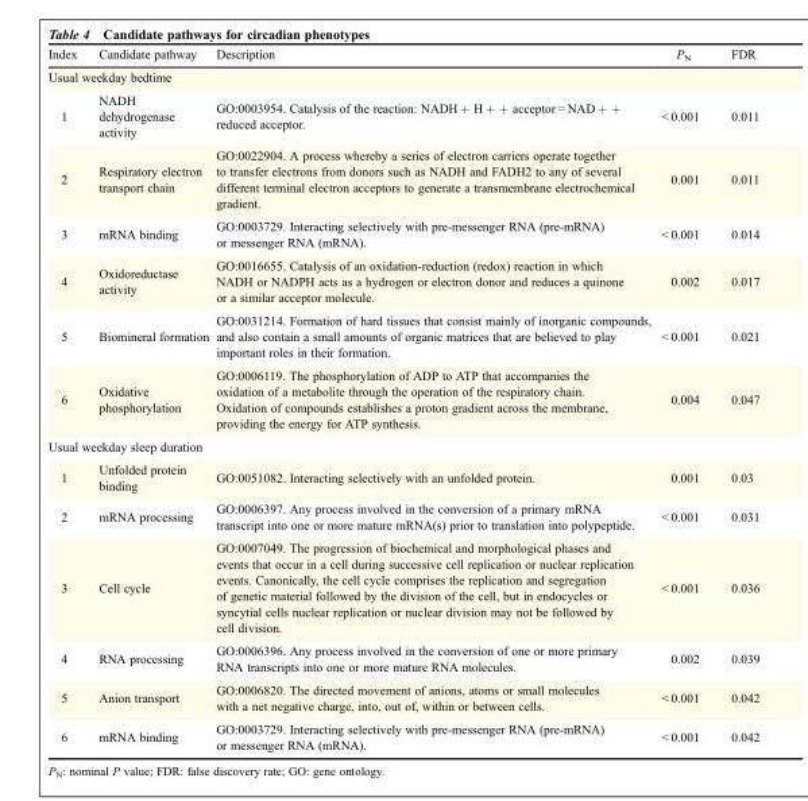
<table><thead><tr><td>Index</td><td>Candidate pathway</td><td>Description</td><td>P<sub>N</sub></td><td>FDR</td></tr></thead><tbody><tr><td colspan="5">Usual weekday bedtime</td></tr><tr><td>1</td><td>NADH dehydrogenase activity</td><td>GO:0003954. Catalysis of the reaction: NADH + H + + acceptor = NAD + + reduced acceptor.</td><td>&lt; 0.001</td><td>0.011</td></tr><tr><td>2</td><td>Respiratory electron transport chain</td><td>GO:0022904. A process whereby a series of electron carriers operate together to transfer electrons from donors such as NADH and FADH2 to any of several different terminal electron acceptors to generate a transmembrane electrochemical gradient.</td><td>0.001</td><td>0.011</td></tr><tr><td>3</td><td>mRNA binding</td><td>GO:0003729. Interacting selectively with pre-messenger RNA (pre-mRNA) or messenger RNA (mRNA).</td><td>&lt; 0.001</td><td>0.014</td></tr><tr><td>4</td><td>Oxidoreductase activity</td><td>GO:0016655. Catalysis of an oxidation-reduction (redox) reaction in which NADH or NADPH acts as a hydrogen or electron donor and reduces a quinone or a similar acceptor molecule.</td><td>0.002</td><td>0.017</td></tr><tr><td>5</td><td>Biomineral formation</td><td>GO:0031214. Formation of hard tissues that consist mainly of inorganic compounds, and also contain a small amounts of organic matrices that are believed to play important roles in their formation.</td><td>&lt; 0.001</td><td>0.021</td></tr><tr><td>6</td><td>Oxidative phosphorylation</td><td>GO:0006119. The phosphorylation of ADP to ATP that accompanies the oxidation of a metabolite through the operation of the respiratory chain. Oxidation of compounds establishes a proton gradient across the membrane, providing the energy for ATP synthesis.</td><td>0.004</td><td>0.047</td></tr><tr><td colspan="5">Usual weekday sleep duration</td></tr><tr><td>1</td><td>Unfolded protein binding</td><td>GO:0051082. Interacting selectively with an unfolded protein.</td><td>0.001</td><td>0.03</td></tr><tr><td>2</td><td>mRNA processing</td><td>GO:0006397. Any process involved in the conversion of a primary mRNA transcript into one or more mature mRNA(s) prior to translation into polypeptide.</td><td>&lt; 0.001</td><td>0.031</td></tr><tr><td>3</td><td>Cell cycle</td><td>GO:0007049. The progression of biochemical and morphological phases and events that occur in a cell during successive cell replication or nuclear replication events. Canonically, the cell cycle comprises the replication and segregation of genetic material followed by the division of the cell, but in endocycles or syncytial cells nuclear replication or nuclear division may not be followed by cell division.</td><td>&lt; 0.001</td><td>0.036</td></tr><tr><td>4</td><td>RNA processing</td><td>GO:0006396. Any process involved in the conversion of one or more primary RNA transcripts into one or more mature RNA molecules.</td><td>0.002</td><td>0.039</td></tr><tr><td>5</td><td>Anion transport</td><td>GO:0006820. The directed movement of anions, atoms or small molecules with a net negative charge, into, out of, within or between cells.</td><td>&lt; 0.001</td><td>0.042</td></tr><tr><td>6</td><td>mRNA binding</td><td>GO:0003729. Interacting selectively with pre-messenger RNA (pre-mRNA) or messenger RNA (mRNA).</td><td>&lt; 0.001</td><td>0.042</td></tr></tbody></table>